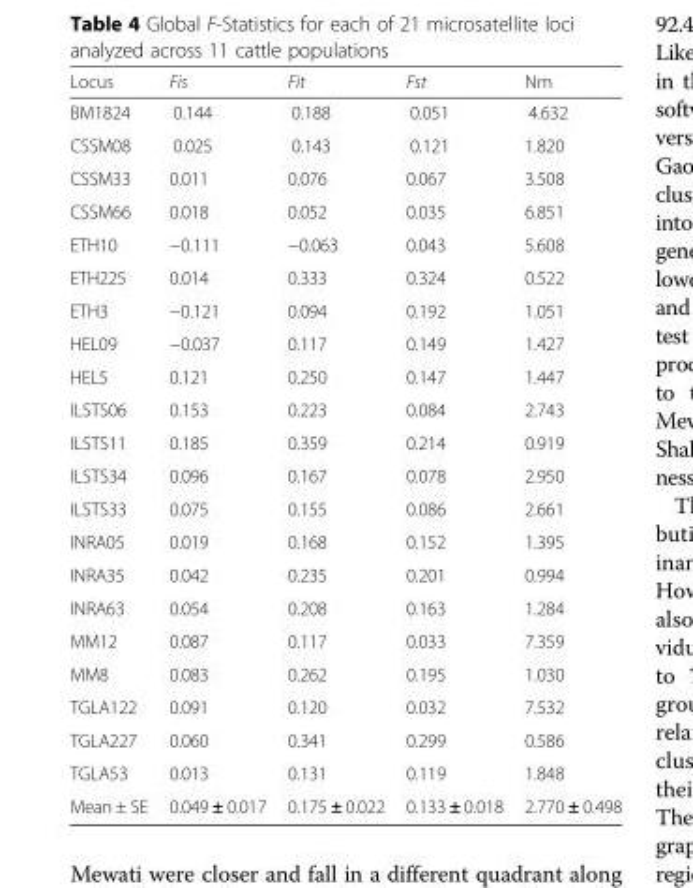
<table><thead><tr><td>Locus</td><td>Fis</td><td>Fit</td><td>Fst</td><td>Nm</td></tr></thead><tbody><tr><td>BM1824</td><td>0.144</td><td>0.188</td><td>0.051</td><td>4.632</td></tr><tr><td>CSSM08</td><td>0.025</td><td>0.143</td><td>0.121</td><td>1.820</td></tr><tr><td>CSSM33</td><td>0.011</td><td>0.076</td><td>0.067</td><td>3.508</td></tr><tr><td>CSSM66</td><td>0.018</td><td>0.052</td><td>0.035</td><td>6.851</td></tr><tr><td>ETH10</td><td>−0.111</td><td>−0.063</td><td>0.043</td><td>5.608</td></tr><tr><td>ETH225</td><td>0.014</td><td>0.333</td><td>0.324</td><td>0.522</td></tr><tr><td>ETH3</td><td>−0.121</td><td>0.094</td><td>0.192</td><td>1.051</td></tr><tr><td>HEL09</td><td>−0.037</td><td>0.117</td><td>0.149</td><td>1.427</td></tr><tr><td>HEL5</td><td>0.121</td><td>0.250</td><td>0.147</td><td>1.447</td></tr><tr><td>ILSTS06</td><td>0.153</td><td>0.223</td><td>0.084</td><td>2.743</td></tr><tr><td>ILSTS11</td><td>0.185</td><td>0.359</td><td>0.214</td><td>0.919</td></tr><tr><td>ILSTS34</td><td>0.096</td><td>0.167</td><td>0.078</td><td>2.950</td></tr><tr><td>ILSTS33</td><td>0.075</td><td>0.155</td><td>0.086</td><td>2.661</td></tr><tr><td>INRA05</td><td>0.019</td><td>0.168</td><td>0.152</td><td>1.395</td></tr><tr><td>INRA35</td><td>0.042</td><td>0.235</td><td>0.201</td><td>0.994</td></tr><tr><td>INRA63</td><td>0.054</td><td>0.208</td><td>0.163</td><td>1.284</td></tr><tr><td>MM12</td><td>0.087</td><td>0.117</td><td>0.033</td><td>7.359</td></tr><tr><td>MM8</td><td>0.083</td><td>0.262</td><td>0.195</td><td>1.030</td></tr><tr><td>TGLA122</td><td>0.091</td><td>0.120</td><td>0.032</td><td>7.532</td></tr><tr><td>TGLA227</td><td>0.060</td><td>0.341</td><td>0.299</td><td>0.586</td></tr><tr><td>TGLA53</td><td>0.013</td><td>0.131</td><td>0.119</td><td>1.848</td></tr><tr><td>Mean ± SE</td><td>0.049 ± 0.017</td><td>0.175 ± 0.022</td><td>0.133 ± 0.018</td><td>2.770 ± 0.498</td></tr></tbody></table>